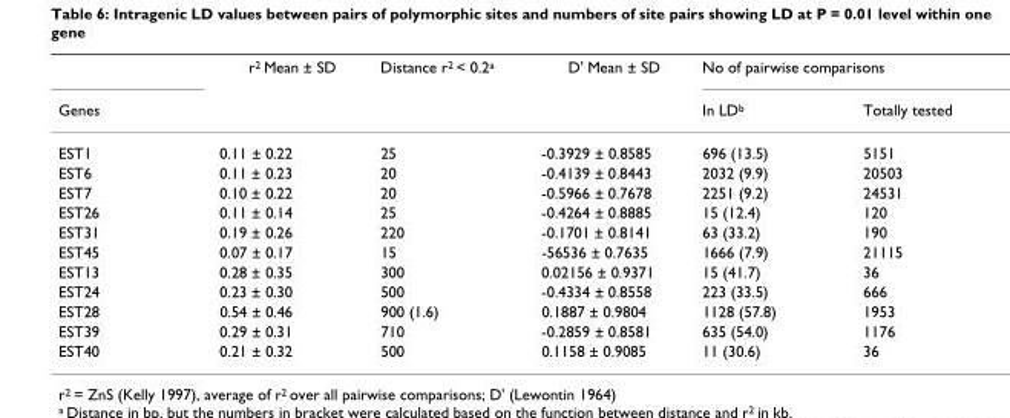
<table><thead><tr><td rowspan="2">Genes</td><td rowspan="2">r<sup>2</sup> Mean ± SD</td><td rowspan="2">Distance r<sup>2</sup> &lt; 0.2<sup>a</sup></td><td rowspan="2">D&#x27; Mean ± SD</td><td colspan="2">No of pairwise comparisons</td></tr><tr><td>In LD<sup>b</sup></td><td>Totally tested</td></tr></thead><tbody><tr><td>EST1</td><td>0.11 ± 0.22</td><td>25</td><td>-0.3929 ± 0.8585</td><td>696 (13.5)</td><td>5151</td></tr><tr><td>EST6</td><td>0.11 ± 0.23</td><td>20</td><td>-0.4139 ± 0.8443</td><td>2032 (9.9)</td><td>20503</td></tr><tr><td>EST7</td><td>0.10 ± 0.22</td><td>20</td><td>-0.5966 ± 0.7678</td><td>2251 (9.2)</td><td>24531</td></tr><tr><td>EST26</td><td>0.11 ± 0.14</td><td>25</td><td>-0.4264 ± 0.8885</td><td>15 (12.4)</td><td>120</td></tr><tr><td>EST31</td><td>0.19 ± 0.26</td><td>220</td><td>-0.1701 ± 0.8141</td><td>63 (33.2)</td><td>190</td></tr><tr><td>EST45</td><td>0.07 ± 0.17</td><td>15</td><td>-56536 ± 0.7635</td><td>1666 (7.9)</td><td>21115</td></tr><tr><td>EST13</td><td>0.28 ± 0.35</td><td>300</td><td>0.02156 ± 0.9371</td><td>15 (41.7)</td><td>36</td></tr><tr><td>EST24</td><td>0.23 ± 0.30</td><td>500</td><td>-0.4334 ± 0.8558</td><td>223 (33.5)</td><td>666</td></tr><tr><td>EST28</td><td>0.54 ± 0.46</td><td>900 (1.6)</td><td>0.1887 ± 0.9804</td><td>1128 (57.8)</td><td>1953</td></tr><tr><td>EST39</td><td>0.29 ± 0.31</td><td>710</td><td>-0.2859 ± 0.8581</td><td>635 (54.0)</td><td>1176</td></tr><tr><td>EST40</td><td>0.21 ± 0.32</td><td>500</td><td>0.1158 ± 0.9085</td><td>11 (30.6)</td><td>36</td></tr></tbody></table>